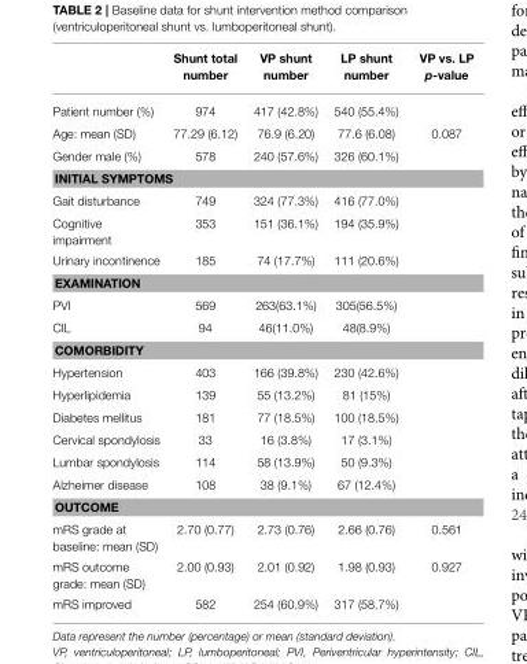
<table><thead><tr><td></td><td>Shunt total number</td><td>VP shunt number</td><td>LP shunt number</td><td>VP vs. LP p-value</td></tr></thead><tbody><tr><td>Patient number (%)</td><td>974</td><td>417 (42.8%)</td><td>540 (55.4%)</td><td></td></tr><tr><td>Age: mean (SD)</td><td>77.29 (6.12)</td><td>76.9 (6.20)</td><td>77.6 (6.08)</td><td>0.087</td></tr><tr><td>Gender male (%)</td><td>578</td><td>240 (57.6%)</td><td>326 (60.1%)</td><td></td></tr><tr><td colspan="5">INITIAL SYMPTOMS</td></tr><tr><td>Gait disturbance</td><td>749</td><td>324 (77.3%)</td><td>416 (77.0%)</td><td></td></tr><tr><td>Cognitive impairment</td><td>353</td><td>151 (36.1%)</td><td>194 (35.9%)</td><td></td></tr><tr><td>Urinary incontinence</td><td>185</td><td>74 (17.7%)</td><td>111 (20.6%)</td><td></td></tr><tr><td colspan="5">EXAMINATION</td></tr><tr><td>PVI</td><td>569</td><td>263(63.1%)</td><td>305(56.5%)</td><td></td></tr><tr><td>CIL</td><td>94</td><td>46(11.0%)</td><td>48(8.9%)</td><td></td></tr><tr><td colspan="5">COMORBIDITY</td></tr><tr><td>Hypertension</td><td>403</td><td>166 (39.8%)</td><td>230 (42.6%)</td><td></td></tr><tr><td>Hyperlipidemia</td><td>139</td><td>55 (13.2%)</td><td>81 (15%)</td><td></td></tr><tr><td>Diabetes mellitus</td><td>181</td><td>77 (18.5%)</td><td>100 (18.5%)</td><td></td></tr><tr><td>Cervical spondylosis</td><td>33</td><td>16 (3.8%)</td><td>17 (3.1%)</td><td></td></tr><tr><td>Lumbar spondylosis</td><td>114</td><td>58 (13.9%)</td><td>50 (9.3%)</td><td></td></tr><tr><td>Alzheimer disease</td><td>108</td><td>38 (9.1%)</td><td>67 (12.4%)</td><td></td></tr><tr><td colspan="5">OUTCOME</td></tr><tr><td>mRS grade at baseline: mean (SD)</td><td>2.70 (0.77)</td><td>2.73 (0.76)</td><td>2.66 (0.76)</td><td>0.561</td></tr><tr><td>mRS outcome grade: mean (SD)</td><td>2.00 (0.93)</td><td>2.01 (0.92)</td><td>1.98 (0.93)</td><td>0.927</td></tr><tr><td>mRS improved</td><td>582</td><td>254 (60.9%)</td><td>317 (58.7%)</td><td></td></tr></tbody></table>